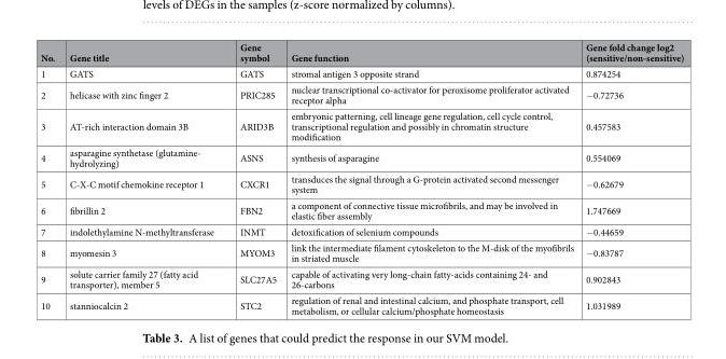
<table><thead><tr><td>No.</td><td>Gene title</td><td>Gene symbol</td><td>Gene function</td><td>Gene fold change log2 (sensitive/non-sensitive)</td></tr></thead><tbody><tr><td>1</td><td>GATS</td><td>GATS</td><td>stromal antigen 3 opposite strand</td><td>0.874254</td></tr><tr><td>2</td><td>helicase with zinc finger 2</td><td>PRIC285</td><td>nuclear transcriptional co-activator for peroxisome proliferator activated receptor alpha</td><td>−0.72736</td></tr><tr><td>3</td><td>AT-rich interaction domain 3B</td><td>ARID3B</td><td>embryonic patterning, cell lineage gene regulation, cell cycle control, transcriptional regulation and possibly in chromatin structure modification</td><td>0.457583</td></tr><tr><td>4</td><td>asparagine synthetase (glutamine- hydrolyzing)</td><td>ASNS</td><td>synthesis of asparagine</td><td>0.554069</td></tr><tr><td>5</td><td>C-X-C motif chemokine receptor 1</td><td>CXCR1</td><td>transduces the signal through a G-protein activated second messenger system</td><td>−0.62679</td></tr><tr><td>6</td><td>fibrillin 2</td><td>FBN2</td><td>a component of connective tissue microfibrils, and may be involved in elastic fiber assembly</td><td>1.747669</td></tr><tr><td>7</td><td>indolethylamine N-methyltransferase</td><td>INMT</td><td>detoxification of selenium compounds</td><td>−0.44659</td></tr><tr><td>8</td><td>myomesin 3</td><td>MYOM3</td><td>link the intermediate filament cytoskeleton to the M-disk of the myofibrils in striated muscle</td><td>−0.83787</td></tr><tr><td>9</td><td>solute carrier family 27 (fatty acid transporter), member 5</td><td>SLC27A5</td><td>capable of activating very long-chain fatty-acids containing 24- and 26-carbons</td><td>0.902843</td></tr><tr><td>10</td><td>stanniocalcin 2</td><td>STC2</td><td>regulation of renal and intestinal calcium, and phosphate transport, cell metabolism, or cellular calcium/phosphate homeostasis</td><td>1.031989</td></tr></tbody></table>